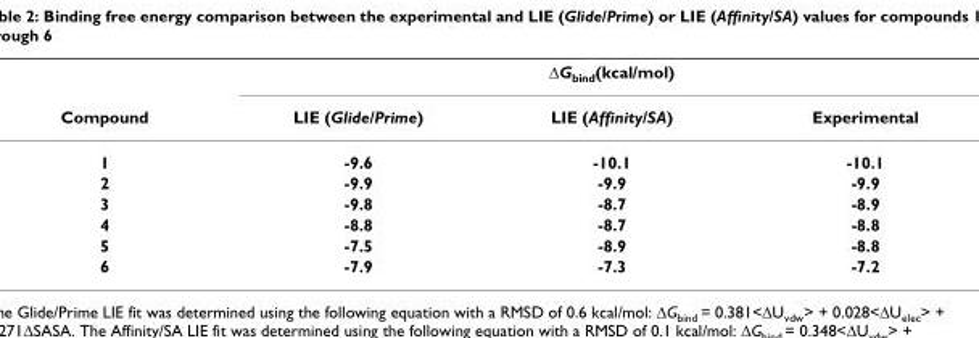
<table><thead><tr><td rowspan="2">Compound</td><td colspan="3">ΔG<sub>bind</sub>(kcal/mol)</td></tr><tr><td>LIE (Glide/Prime)</td><td>LIE (Affinity/SA)</td><td>Experimental</td></tr></thead><tbody><tr><td>1</td><td>-9.6</td><td>-10.1</td><td>-10.1</td></tr><tr><td>2</td><td>-9.9</td><td>-9.9</td><td>-9.9</td></tr><tr><td>3</td><td>-9.8</td><td>-8.7</td><td>-8.9</td></tr><tr><td>4</td><td>-8.8</td><td>-8.7</td><td>-8.8</td></tr><tr><td>5</td><td>-7.5</td><td>-8.9</td><td>-8.8</td></tr><tr><td>6</td><td>-7.9</td><td>-7.3</td><td>-7.2</td></tr></tbody></table>